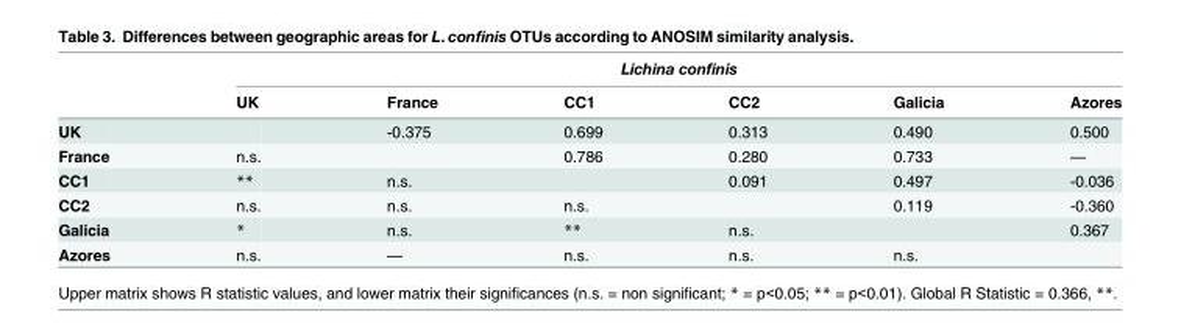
<table><thead><tr><td rowspan="2"></td><td colspan="6">Lichina confinis</td></tr><tr><td>UK</td><td>France</td><td>CC1</td><td>CC2</td><td>Galicia</td><td>Azores</td></tr></thead><tbody><tr><td>UK</td><td></td><td>-0.375</td><td>0.699</td><td>0.313</td><td>0.490</td><td>0.500</td></tr><tr><td>France</td><td>n.s.</td><td></td><td>0.786</td><td>0.280</td><td>0.733</td><td>—</td></tr><tr><td>CC1</td><td>**</td><td>n.s.</td><td></td><td>0.091</td><td>0.497</td><td>-0.036</td></tr><tr><td>CC2</td><td>n.s.</td><td>n.s.</td><td>n.s.</td><td></td><td>0.119</td><td>-0.360</td></tr><tr><td>Galicia</td><td>*</td><td>n.s.</td><td>**</td><td>n.s.</td><td></td><td>0.367</td></tr><tr><td>Azores</td><td>n.s.</td><td>—</td><td>n.s.</td><td>n.s.</td><td>n.s.</td><td></td></tr></tbody></table>